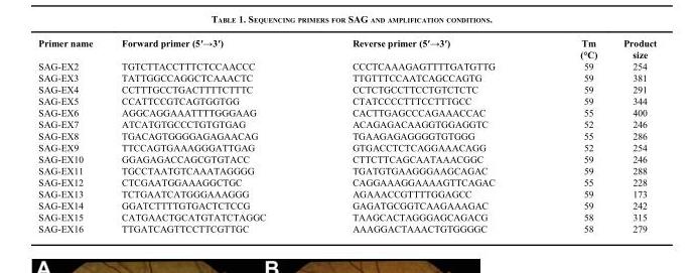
<table><thead><tr><td>Primer name</td><td>Forward primer (5′→3′)</td><td>Reverse primer (5′→3′)</td><td>Tm (°C)</td><td>Product size</td></tr></thead><tbody><tr><td>SAG-EX2</td><td>TGTCTTACCTTTCTCCAACCC</td><td>CCCTCAAAGAGTTTTGATGTTG</td><td>59</td><td>254</td></tr><tr><td>SAG-EX3</td><td>TATTGGCCAGGCTCAAACTC</td><td>TTGTTTCCAATCAGCCAGTG</td><td>59</td><td>381</td></tr><tr><td>SAG-EX4</td><td>CCTTTGCCTGACTTTTCTTTC</td><td>CCTCTGCCTTCCTGTCTCTC</td><td>59</td><td>291</td></tr><tr><td>SAG-EX5</td><td>CCATTCCGTCAGTGGTGG</td><td>CTATCCCCTTTCCTTTGCC</td><td>59</td><td>344</td></tr><tr><td>SAG-EX6</td><td>AGGCAGGAAATTTTGGGAAG</td><td>CACTTGAGCCCAGAAACCAC</td><td>55</td><td>400</td></tr><tr><td>SAG-EX7</td><td>ATCATGTGCCCTGTGTGAG</td><td>ACAGAGACAAGGTGGAGGTC</td><td>52</td><td>246</td></tr><tr><td>SAG-EX8</td><td>TGACAGTGGGGAGAGAACAG</td><td>TGAAGAGAGGGGTGTGGG</td><td>55</td><td>286</td></tr><tr><td>SAG-EX9</td><td>TTCCAGTGAAAGGGATTGAG</td><td>GTGACCTCTCAGGAAACAGG</td><td>52</td><td>254</td></tr><tr><td>SAG-EX10</td><td>GGAGAGACCAGCGTGTACC</td><td>CTTCTTCAGCAATAAACGGC</td><td>59</td><td>246</td></tr><tr><td>SAG-EX11</td><td>TGCCTAATGTCAAATAGGGG</td><td>TGATGTGAAGGGAAGCAGAC</td><td>59</td><td>288</td></tr><tr><td>SAG-EX12</td><td>CTCGAATGGAAAGGCTGC</td><td>CAGGAAAGGAAAAGTTCAGAC</td><td>55</td><td>228</td></tr><tr><td>SAG-EX13</td><td>TCTGAATCATGGGAAAGGG</td><td>AGAAACCGTTTTGGAGCC</td><td>59</td><td>173</td></tr><tr><td>SAG-EX14</td><td>GGATCTTTTGTGACTCTCCG</td><td>GAGATGCGGTCAAGAAAGAC</td><td>59</td><td>242</td></tr><tr><td>SAG-EX15</td><td>CATGAACTGCATGTATCTAGGC</td><td>TAAGCACTAGGGAGCAGACG</td><td>58</td><td>315</td></tr><tr><td>SAG-EX16</td><td>TTGATCAGTTCCTTCGTTGC</td><td>AAAGGACTAAACTGTGGGGC</td><td>58</td><td>279</td></tr></tbody></table>